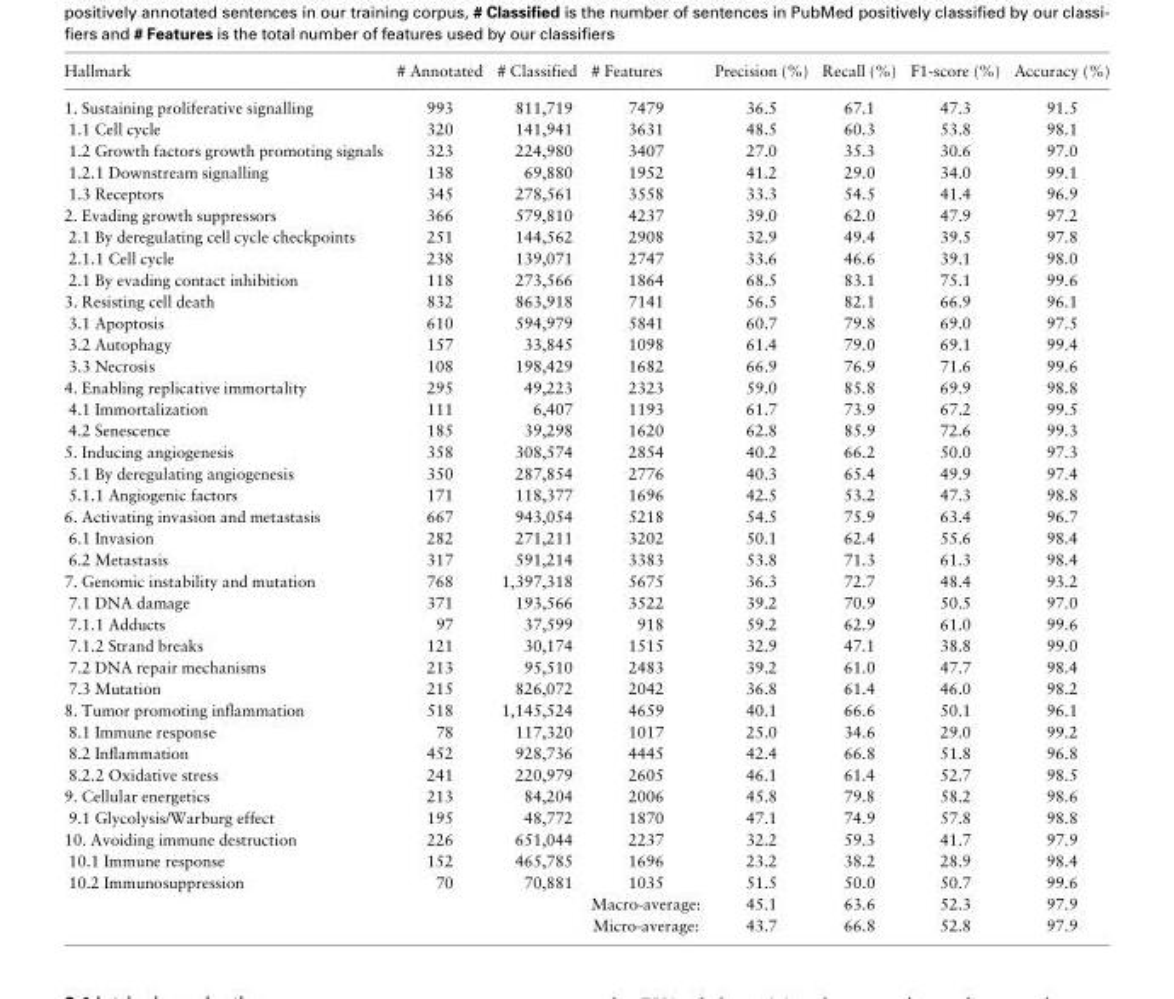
<table><thead><tr><td>Hallmark</td><td># Annotated</td><td># Classified</td><td># Features</td><td>Precision (%)</td><td>Recall (%)</td><td>F1-score (%)</td><td>Accuracy (%)</td></tr></thead><tbody><tr><td>1. Sustaining proliferative signalling</td><td>993</td><td>811,719</td><td>7479</td><td>36.5</td><td>67.1</td><td>47.3</td><td>91.5</td></tr><tr><td>1.1 Cell cycle</td><td>320</td><td>141,941</td><td>3631</td><td>48.5</td><td>60.3</td><td>53.8</td><td>98.1</td></tr><tr><td>1.2 Growth factors growth promoting signals</td><td>323</td><td>224,980</td><td>3407</td><td>27.0</td><td>35.3</td><td>30.6</td><td>97.0</td></tr><tr><td>1.2.1 Downstream signalling</td><td>138</td><td>69,880</td><td>1952</td><td>41.2</td><td>29.0</td><td>34.0</td><td>99.1</td></tr><tr><td>1.3 Receptors</td><td>345</td><td>278,561</td><td>3558</td><td>33.3</td><td>54.5</td><td>41.4</td><td>96.9</td></tr><tr><td>2. Evading growth suppressors</td><td>366</td><td>579,810</td><td>4237</td><td>39.0</td><td>62.0</td><td>47.9</td><td>97.2</td></tr><tr><td>2.1 By deregulating cell cycle checkpoints</td><td>251</td><td>144,562</td><td>2908</td><td>32.9</td><td>49.4</td><td>39.5</td><td>97.8</td></tr><tr><td>2.1.1 Cell cycle</td><td>238</td><td>139,071</td><td>2747</td><td>33.6</td><td>46.6</td><td>39.1</td><td>98.0</td></tr><tr><td>2.1 By evading contact inhibition</td><td>118</td><td>273,566</td><td>1864</td><td>68.5</td><td>83.1</td><td>75.1</td><td>99.6</td></tr><tr><td>3. Resisting cell death</td><td>832</td><td>863,918</td><td>7141</td><td>56.5</td><td>82.1</td><td>66.9</td><td>96.1</td></tr><tr><td>3.1 Apoptosis</td><td>610</td><td>594,979</td><td>5841</td><td>60.7</td><td>79.8</td><td>69.0</td><td>97.5</td></tr><tr><td>3.2 Autophagy</td><td>157</td><td>33,845</td><td>1098</td><td>61.4</td><td>79.0</td><td>69.1</td><td>99.4</td></tr><tr><td>3.3 Necrosis</td><td>108</td><td>198,429</td><td>1682</td><td>66.9</td><td>76.9</td><td>71.6</td><td>99.6</td></tr><tr><td>4. Enabling replicative immortality</td><td>295</td><td>49,223</td><td>2323</td><td>59.0</td><td>85.8</td><td>69.9</td><td>98.8</td></tr><tr><td>4.1 Immortalization</td><td>111</td><td>6,407</td><td>1193</td><td>61.7</td><td>73.9</td><td>67.2</td><td>99.5</td></tr><tr><td>4.2 Senescence</td><td>185</td><td>39,298</td><td>1620</td><td>62.8</td><td>85.9</td><td>72.6</td><td>99.3</td></tr><tr><td>5. Inducing angiogenesis</td><td>358</td><td>308,574</td><td>2854</td><td>40.2</td><td>66.2</td><td>50.0</td><td>97.3</td></tr><tr><td>5.1 By deregulating angiogenesis</td><td>350</td><td>287,854</td><td>2776</td><td>40.3</td><td>65.4</td><td>49.9</td><td>97.4</td></tr><tr><td>5.1.1 Angiogenic factors</td><td>171</td><td>118,377</td><td>1696</td><td>42.5</td><td>53.2</td><td>47.3</td><td>98.8</td></tr><tr><td>6. Activating invasion and metastasis</td><td>667</td><td>943,054</td><td>5218</td><td>54.5</td><td>75.9</td><td>63.4</td><td>96.7</td></tr><tr><td>6.1 Invasion</td><td>282</td><td>271,211</td><td>3202</td><td>50.1</td><td>62.4</td><td>55.6</td><td>98.4</td></tr><tr><td>6.2 Metastasis</td><td>317</td><td>591,214</td><td>3383</td><td>53.8</td><td>71.3</td><td>61.3</td><td>98.4</td></tr><tr><td>7. Genomic instability and mutation</td><td>768</td><td>1,397,318</td><td>5675</td><td>36.3</td><td>72.7</td><td>48.4</td><td>93.2</td></tr><tr><td>7.1 DNA damage</td><td>371</td><td>193,566</td><td>3522</td><td>39.2</td><td>70.9</td><td>50.5</td><td>97.0</td></tr><tr><td>7.1.1 Adducts</td><td>97</td><td>37,599</td><td>918</td><td>59.2</td><td>62.9</td><td>61.0</td><td>99.6</td></tr><tr><td>7.1.2 Strand breaks</td><td>121</td><td>30,174</td><td>1515</td><td>32.9</td><td>47.1</td><td>38.8</td><td>99.0</td></tr><tr><td>7.2 DNA repair mechanisms</td><td>213</td><td>95,510</td><td>2483</td><td>39.2</td><td>61.0</td><td>47.7</td><td>98.4</td></tr><tr><td>7.3 Mutation</td><td>215</td><td>826,072</td><td>2042</td><td>36.8</td><td>61.4</td><td>46.0</td><td>98.2</td></tr><tr><td>8. Tumor promoting inflammation</td><td>518</td><td>1,145,524</td><td>4659</td><td>40.1</td><td>66.6</td><td>50.1</td><td>96.1</td></tr><tr><td>8.1 Immune response</td><td>78</td><td>117,320</td><td>1017</td><td>25.0</td><td>34.6</td><td>29.0</td><td>99.2</td></tr><tr><td>8.2 Inflammation</td><td>452</td><td>928,736</td><td>4445</td><td>42.4</td><td>66.8</td><td>51.8</td><td>96.8</td></tr><tr><td>8.2.2 Oxidative stress</td><td>241</td><td>220,979</td><td>2605</td><td>46.1</td><td>61.4</td><td>52.7</td><td>98.5</td></tr><tr><td>9. Cellular energetics</td><td>213</td><td>84,204</td><td>2006</td><td>45.8</td><td>79.8</td><td>58.2</td><td>98.6</td></tr><tr><td>9.1 Glycolysis/Warburg effect</td><td>195</td><td>48,772</td><td>1870</td><td>47.1</td><td>74.9</td><td>57.8</td><td>98.8</td></tr><tr><td>10. Avoiding immune destruction</td><td>226</td><td>651,044</td><td>2237</td><td>32.2</td><td>59.3</td><td>41.7</td><td>97.9</td></tr><tr><td>10.1 Immune response</td><td>152</td><td>465,785</td><td>1696</td><td>23.2</td><td>38.2</td><td>28.9</td><td>98.4</td></tr><tr><td rowspan="3">10.2 Immunosuppression</td><td>70</td><td>70,881</td><td>1035</td><td>51.5</td><td>50.0</td><td>50.7</td><td>99.6</td></tr><tr><td></td><td></td><td>Macro-average:</td><td>45.1</td><td>63.6</td><td>52.3</td><td>97.9</td></tr><tr><td></td><td></td><td>Micro-average:</td><td>43.7</td><td>66.8</td><td>52.8</td><td>97.9</td></tr></tbody></table>